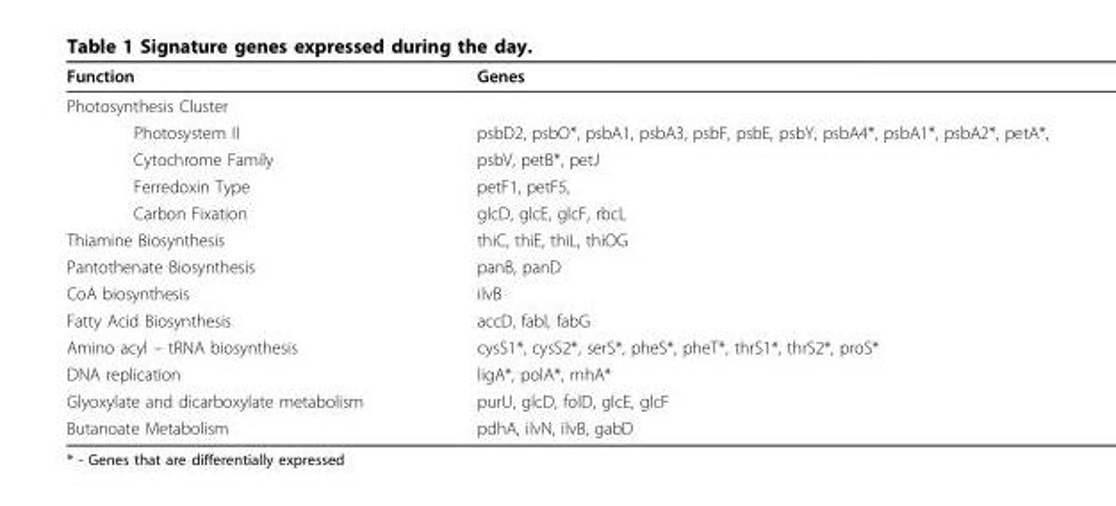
<table><thead><tr><td>Function</td><td>Genes</td></tr></thead><tbody><tr><td colspan="2">Photosynthesis Cluster</td></tr><tr><td>Photosystem II</td><td>psbD2, psbO*, psbA1, psbA3, psbF, psbE, psbY, psbA4*, psbA1*, psbA2*, petA*,</td></tr><tr><td>Cytochrome Family</td><td>psbV, petB*, petJ</td></tr><tr><td>Ferredoxin Type</td><td>petF1, petF5,</td></tr><tr><td>Carbon Fixation</td><td>glcD, glcE, glcF, rbcL</td></tr><tr><td>Thiamine Biosynthesis</td><td>thiC, thiE, thiL, thiOG</td></tr><tr><td>Pantothenate Biosynthesis</td><td>panB, panD</td></tr><tr><td>CoA biosynthesis</td><td>ilvB</td></tr><tr><td>Fatty Acid Biosynthesis</td><td>accD, fabl, fabG</td></tr><tr><td>Amino acyl – tRNA biosynthesis</td><td>cysS1*, cysS2*, serS*, pheS*, pheT*, thrS1*, thrS2*, proS*</td></tr><tr><td>DNA replication</td><td>ligA*, polA*, rnhA*</td></tr><tr><td>Glyoxylate and dicarboxylate metabolism</td><td>purU, glcD, folD, glcE, glcF</td></tr><tr><td>Butanoate Metabolism</td><td>pdhA, ilvN, ilvB, gabD</td></tr></tbody></table>